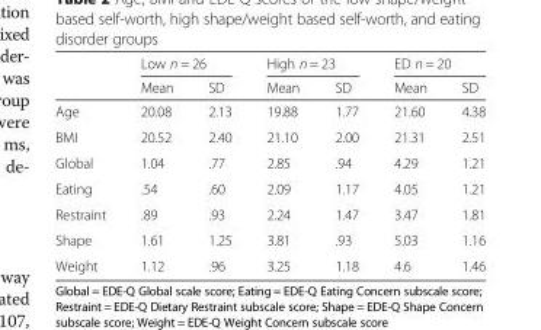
<table><thead><tr><td rowspan="2"></td><td colspan="2">Low n = 26</td><td colspan="2">High n = 23</td><td colspan="2">ED n = 20</td></tr><tr><td>Mean</td><td>SD</td><td>Mean</td><td>SD</td><td>Mean</td><td>SD</td></tr></thead><tbody><tr><td>Age</td><td>20.08</td><td>2.13</td><td>19.88</td><td>1.77</td><td>21.60</td><td>4.38</td></tr><tr><td>BMI</td><td>20.52</td><td>2.40</td><td>21.10</td><td>2.00</td><td>21.31</td><td>2.51</td></tr><tr><td>Global</td><td>1.04</td><td>.77</td><td>2.85</td><td>.94</td><td>4.29</td><td>1.21</td></tr><tr><td>Eating</td><td>.54</td><td>.60</td><td>2.09</td><td>1.17</td><td>4.05</td><td>1.21</td></tr><tr><td>Restraint</td><td>.89</td><td>.93</td><td>2.24</td><td>1.47</td><td>3.47</td><td>1.81</td></tr><tr><td>Shape</td><td>1.61</td><td>1.25</td><td>3.81</td><td>.93</td><td>5.03</td><td>1.16</td></tr><tr><td>Weight</td><td>1.12</td><td>.96</td><td>3.25</td><td>1.18</td><td>4.6</td><td>1.46</td></tr></tbody></table>